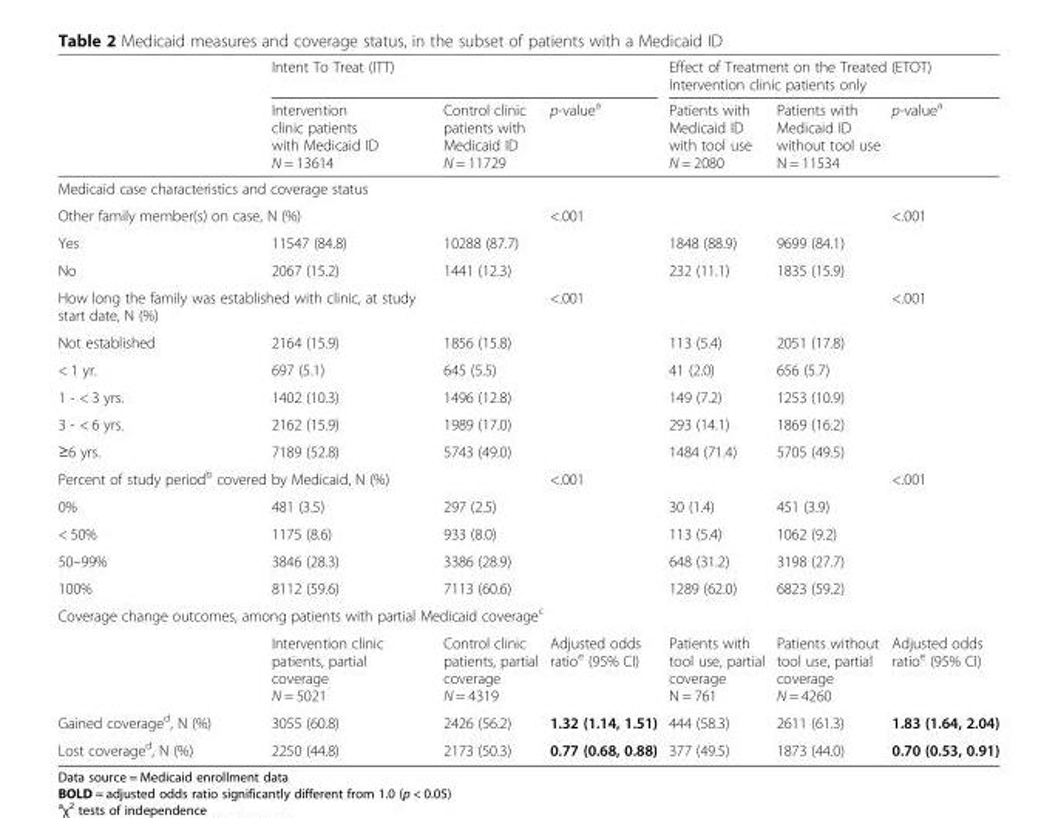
<table><thead><tr><td rowspan="2"></td><td colspan="3">Intent To Treat (ITT)</td><td colspan="3">Effect of Treatment on the Treated (ETOT) Intervention clinic patients only</td></tr><tr><td>Intervention clinic patients with Medicaid ID N = 13614</td><td>Control clinic patients with Medicaid ID N = 11729</td><td>p-value<sup>a</sup></td><td>Patients with Medicaid ID with tool use N = 2080</td><td>Patients with Medicaid ID without tool use N = 11534</td><td>p-value<sup>a</sup></td></tr></thead><tbody><tr><td colspan="7">Medicaid case characteristics and coverage status</td></tr><tr><td colspan="2">Other family member(s) on case, N (%)</td><td></td><td>&lt;.001</td><td></td><td></td><td>&lt;.001</td></tr><tr><td>Yes</td><td>11547 (84.8)</td><td>10288 (87.7)</td><td></td><td>1848 (88.9)</td><td>9699 (84.1)</td><td></td></tr><tr><td>No</td><td>2067 (15.2)</td><td>1441 (12.3)</td><td></td><td>232 (11.1)</td><td>1835 (15.9)</td><td></td></tr><tr><td colspan="2">How long the family was established with clinic, at study start date, N (%)</td><td></td><td>&lt;.001</td><td></td><td></td><td>&lt;.001</td></tr><tr><td>Not established</td><td>2164 (15.9)</td><td>1856 (15.8)</td><td></td><td>113 (5.4)</td><td>2051 (17.8)</td><td></td></tr><tr><td>&lt; 1 yr.</td><td>697 (5.1)</td><td>645 (5.5)</td><td></td><td>41 (2.0)</td><td>656 (5.7)</td><td></td></tr><tr><td>1 - &lt; 3 yrs.</td><td>1402 (10.3)</td><td>1496 (12.8)</td><td></td><td>149 (7.2)</td><td>1253 (10.9)</td><td></td></tr><tr><td>3 - &lt; 6 yrs.</td><td>2162 (15.9)</td><td>1989 (17.0)</td><td></td><td>293 (14.1)</td><td>1869 (16.2)</td><td></td></tr><tr><td>≥6 yrs.</td><td>7189 (52.8)</td><td>5743 (49.0)</td><td></td><td>1484 (71.4)</td><td>5705 (49.5)</td><td></td></tr><tr><td colspan="2">Percent of study period<sup>b</sup> covered by Medicaid, N (%)</td><td></td><td>&lt;.001</td><td></td><td></td><td>&lt;.001</td></tr><tr><td>0%</td><td>481 (3.5)</td><td>297 (2.5)</td><td></td><td>30 (1.4)</td><td>451 (3.9)</td><td></td></tr><tr><td>&lt; 50%</td><td>1175 (8.6)</td><td>933 (8.0)</td><td></td><td>113 (5.4)</td><td>1062 (9.2)</td><td></td></tr><tr><td>50–99%</td><td>3846 (28.3)</td><td>3386 (28.9)</td><td></td><td>648 (31.2)</td><td>3198 (27.7)</td><td></td></tr><tr><td>100%</td><td>8112 (59.6)</td><td>7113 (60.6)</td><td></td><td>1289 (62.0)</td><td>6823 (59.2)</td><td></td></tr><tr><td colspan="7">Coverage change outcomes, among patients with partial Medicaid coverage<sup>c</sup></td></tr><tr><td></td><td>Intervention clinic patients, partial coverage N = 5021</td><td>Control clinic patients, partial coverage N = 4319</td><td>Adjusted odds ratio<sup>e</sup> (95% CI)</td><td>Patients with tool use, partial coverage N = 761</td><td>Patients without tool use, partial coverage N = 4260</td><td>Adjusted odds ratio<sup>e</sup> (95% CI)</td></tr><tr><td>Gained coverage<sup>d</sup>, N (%)</td><td>3055 (60.8)</td><td>2426 (56.2)</td><td>1.32 (1.14, 1.51)</td><td>444 (58.3)</td><td>2611 (61.3)</td><td>1.83 (1.64, 2.04)</td></tr><tr><td>Lost coverage<sup>d</sup>, N (%)</td><td>2250 (44.8)</td><td>2173 (50.3)</td><td>0.77 (0.68, 0.88)</td><td>377 (49.5)</td><td>1873 (44.0)</td><td>0.70 (0.53, 0.91)</td></tr></tbody></table>